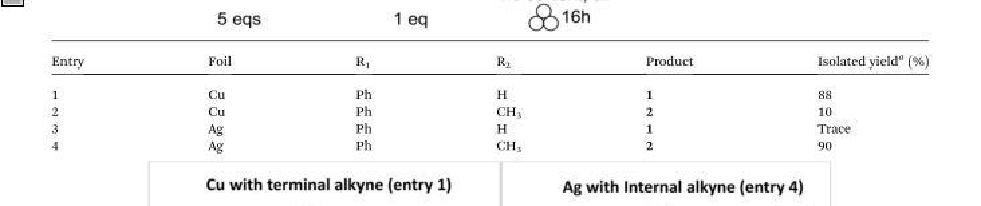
<table><thead><tr><td>Entry</td><td>Foil</td><td>R<sub>1</sub></td><td>R<sub>2</sub></td><td>Product</td><td>Isolated yield<sup>a</sup> (%)</td></tr></thead><tbody><tr><td>1</td><td>Cu</td><td>Ph</td><td>H</td><td>1</td><td>88</td></tr><tr><td>2</td><td>Cu</td><td>Ph</td><td>CH<sub>3</sub></td><td>2</td><td>10</td></tr><tr><td>3</td><td>Ag</td><td>Ph</td><td>H</td><td>1</td><td>Trace</td></tr><tr><td>4</td><td>Ag</td><td>Ph</td><td>CH<sub>3</sub></td><td>2</td><td>90</td></tr></tbody></table>